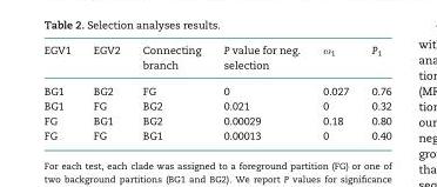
<table><thead><tr><td>EGV1</td><td>EGV2</td><td>Connecting branch</td><td>P value for neg. selection</td><td>ω<sub>1</sub></td><td>P<sub>1</sub></td></tr></thead><tbody><tr><td>BG1</td><td>BG2</td><td>FG</td><td>0</td><td>0.027</td><td>0.76</td></tr><tr><td>BG1</td><td>FG</td><td>BG2</td><td>0.021</td><td>0</td><td>0.32</td></tr><tr><td>FG</td><td>BG1</td><td>BG2</td><td>0.00029</td><td>0.18</td><td>0.80</td></tr><tr><td>FG</td><td>FG</td><td>BG1</td><td>0.00013</td><td>0</td><td>0.40</td></tr></tbody></table>